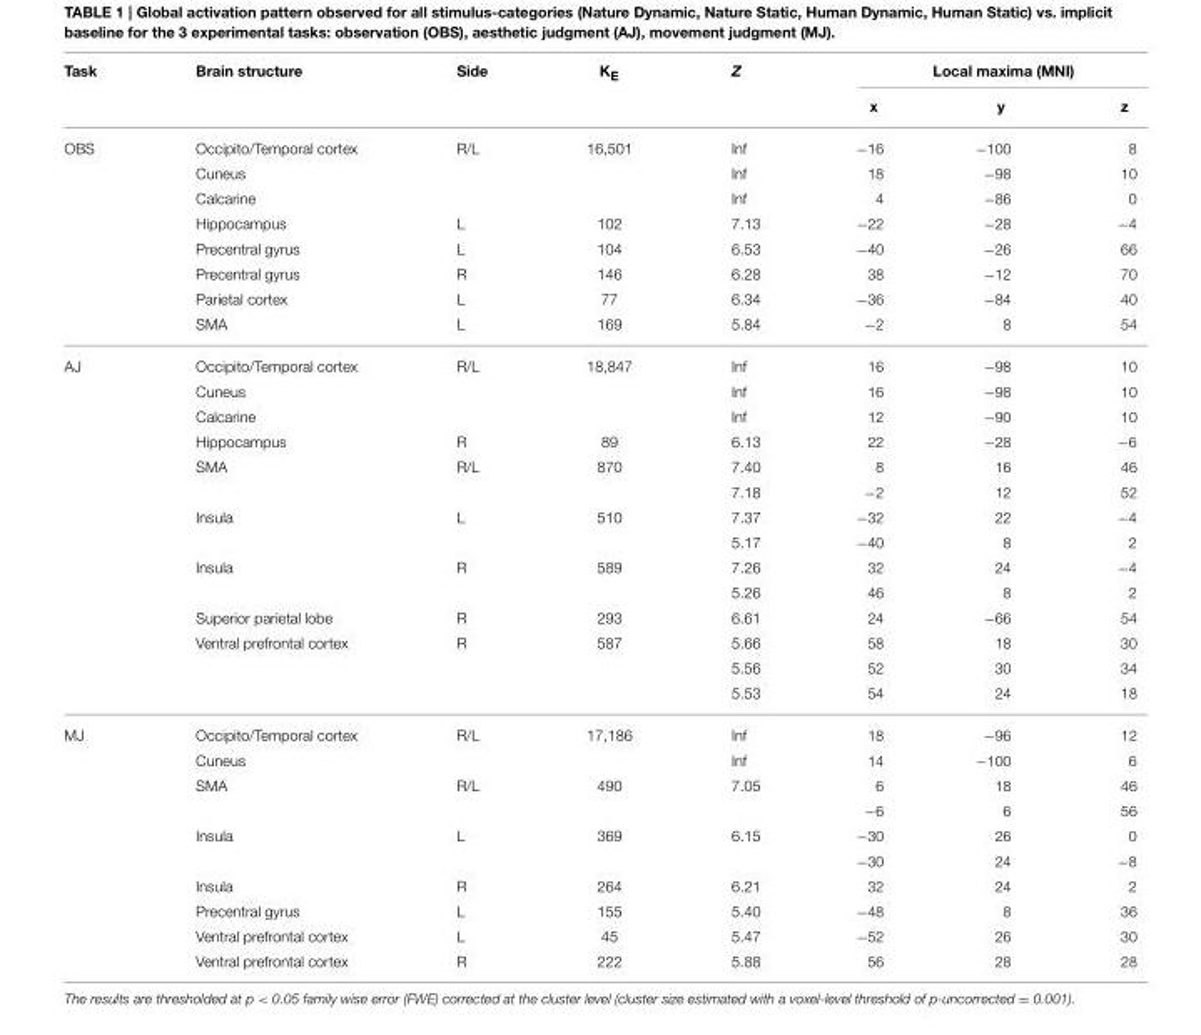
<table><thead><tr><td rowspan="2">Task</td><td rowspan="2">Brain structure</td><td rowspan="2">Side</td><td rowspan="2">K<sub>E</sub></td><td rowspan="2">Z</td><td colspan="3">Local maxima (MNI)</td></tr><tr><td>x</td><td>y</td><td>z</td></tr></thead><tbody><tr><td rowspan="8">OBS</td><td>Occipito/Temporal cortex</td><td>R/L</td><td>16,501</td><td>Inf</td><td>−16</td><td>−100</td><td>8</td></tr><tr><td>Cuneus</td><td></td><td></td><td>Inf</td><td>18</td><td>−98</td><td>10</td></tr><tr><td>Calcarine</td><td></td><td></td><td>Inf</td><td>4</td><td>−86</td><td>0</td></tr><tr><td>Hippocampus</td><td>L</td><td>102</td><td>7.13</td><td>−22</td><td>−28</td><td>−4</td></tr><tr><td>Precentral gyrus</td><td>L</td><td>104</td><td>6.53</td><td>−40</td><td>−26</td><td>66</td></tr><tr><td>Precentral gyrus</td><td>R</td><td>146</td><td>6.28</td><td>38</td><td>−12</td><td>70</td></tr><tr><td>Parietal cortex</td><td>L</td><td>77</td><td>6.34</td><td>−36</td><td>−84</td><td>40</td></tr><tr><td>SMA</td><td>L</td><td>169</td><td>5.84</td><td>−2</td><td>8</td><td>54</td></tr><tr><td rowspan="14">AJ</td><td>Occipito/Temporal cortex</td><td>R/L</td><td>18,847</td><td>Inf</td><td>16</td><td>−98</td><td>10</td></tr><tr><td>Cuneus</td><td></td><td></td><td>Inf</td><td>16</td><td>−98</td><td>10</td></tr><tr><td>Calcarine</td><td></td><td></td><td>Inf</td><td>12</td><td>−90</td><td>10</td></tr><tr><td>Hippocampus</td><td>R</td><td>89</td><td>6.13</td><td>22</td><td>−28</td><td>−6</td></tr><tr><td>SMA</td><td>R/L</td><td>870</td><td>7.40</td><td>8</td><td>16</td><td>46</td></tr><tr><td></td><td></td><td></td><td>7.18</td><td>−2</td><td>12</td><td>52</td></tr><tr><td>Insula</td><td>L</td><td>510</td><td>7.37</td><td>−32</td><td>22</td><td>−4</td></tr><tr><td></td><td></td><td></td><td>5.17</td><td>−40</td><td>8</td><td>2</td></tr><tr><td>Insula</td><td>R</td><td>589</td><td>7.26</td><td>32</td><td>24</td><td>−4</td></tr><tr><td></td><td></td><td></td><td>5.26</td><td>46</td><td>8</td><td>2</td></tr><tr><td>Superior parietal lobe</td><td>R</td><td>293</td><td>6.61</td><td>24</td><td>−66</td><td>54</td></tr><tr><td>Ventral prefrontal cortex</td><td>R</td><td>587</td><td>5.66</td><td>58</td><td>18</td><td>30</td></tr><tr><td></td><td></td><td></td><td>5.56</td><td>52</td><td>30</td><td>34</td></tr><tr><td></td><td></td><td></td><td>5.53</td><td>54</td><td>24</td><td>18</td></tr><tr><td rowspan="10">MJ</td><td>Occipito/Temporal cortex</td><td>R/L</td><td>17,186</td><td>Inf</td><td>18</td><td>−96</td><td>12</td></tr><tr><td>Cuneus</td><td></td><td></td><td>Inf</td><td>14</td><td>−100</td><td>6</td></tr><tr><td>SMA</td><td>R/L</td><td>490</td><td>7.05</td><td>6</td><td>18</td><td>46</td></tr><tr><td></td><td></td><td></td><td></td><td>−6</td><td>6</td><td>56</td></tr><tr><td>Insula</td><td>L</td><td>369</td><td>6.15</td><td>−30</td><td>26</td><td>0</td></tr><tr><td></td><td></td><td></td><td></td><td>−30</td><td>24</td><td>−8</td></tr><tr><td>Insula</td><td>R</td><td>264</td><td>6.21</td><td>32</td><td>24</td><td>2</td></tr><tr><td>Precentral gyrus</td><td>L</td><td>155</td><td>5.40</td><td>−48</td><td>8</td><td>36</td></tr><tr><td>Ventral prefrontal cortex</td><td>L</td><td>45</td><td>5.47</td><td>−52</td><td>26</td><td>30</td></tr><tr><td>Ventral prefrontal cortex</td><td>R</td><td>222</td><td>5.88</td><td>56</td><td>28</td><td>28</td></tr></tbody></table>